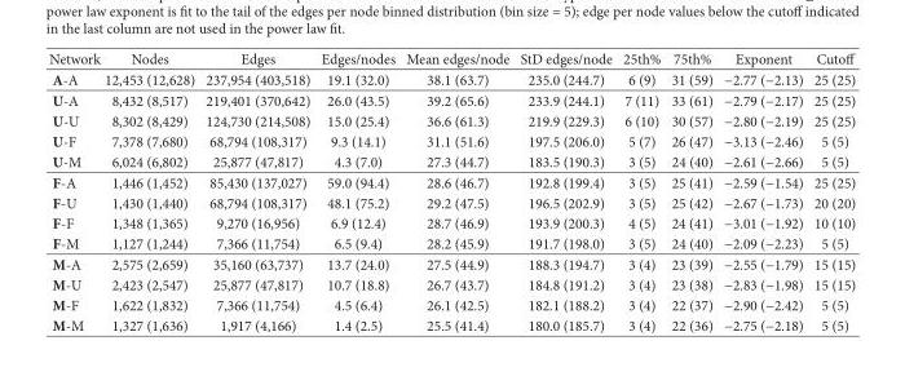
<table><thead><tr><td>Network</td><td>Nodes</td><td>Edges</td><td>Edges/nodes</td><td>Mean edges/node</td><td>StD edges/node</td><td>25th%</td><td>75th%</td><td>Exponent</td><td>Cutoff</td></tr></thead><tbody><tr><td>A-A</td><td>12,453 (12,628)</td><td>237,954 (403,518)</td><td>19.1 (32.0)</td><td>38.1 (63.7)</td><td>235.0 (244.7)</td><td>6 (9)</td><td>31 (59)</td><td>−2.77 (−2.13)</td><td>25 (25)</td></tr><tr><td>U-A</td><td>8,432 (8,517)</td><td>219,401 (370,642)</td><td>26.0 (43.5)</td><td>39.2 (65.6)</td><td>233.9 (244.1)</td><td>7 (11)</td><td>33 (61)</td><td>−2.79 (−2.17)</td><td>25 (25)</td></tr><tr><td>U-U</td><td>8,302 (8,429)</td><td>124,730 (214,508)</td><td>15.0 (25.4)</td><td>36.6 (61.3)</td><td>219.9 (229.3)</td><td>6 (10)</td><td>30 (57)</td><td>−2.80 (−2.19)</td><td>25 (25)</td></tr><tr><td>U-F</td><td>7,378 (7,680)</td><td>68,794 (108,317)</td><td>9.3 (14.1)</td><td>31.1 (51.6)</td><td>197.5 (206.0)</td><td>5 (7)</td><td>26 (47)</td><td>−3.13 (−2.46)</td><td>5 (5)</td></tr><tr><td>U-M</td><td>6,024 (6,802)</td><td>25,877 (47,817)</td><td>4.3 (7.0)</td><td>27.3 (44.7)</td><td>183.5 (190.3)</td><td>3 (5)</td><td>24 (40)</td><td>−2.61 (−2.66)</td><td>5 (5)</td></tr><tr><td>F-A</td><td>1,446 (1,452)</td><td>85,430 (137,027)</td><td>59.0 (94.4)</td><td>28.6 (46.7)</td><td>192.8 (199.4)</td><td>3 (5)</td><td>25 (41)</td><td>−2.59 (−1.54)</td><td>25 (25)</td></tr><tr><td>F-U</td><td>1,430 (1,440)</td><td>68,794 (108,317)</td><td>48.1 (75.2)</td><td>29.2 (47.5)</td><td>196.5 (202.9)</td><td>3 (5)</td><td>25 (42)</td><td>−2.67 (−1.73)</td><td>20 (20)</td></tr><tr><td>F-F</td><td>1,348 (1,365)</td><td>9,270 (16,956)</td><td>6.9 (12.4)</td><td>28.7 (46.9)</td><td>193.9 (200.3)</td><td>4 (5)</td><td>24 (41)</td><td>−3.01 (−1.92)</td><td>10 (10)</td></tr><tr><td>F-M</td><td>1,127 (1,244)</td><td>7,366 (11,754)</td><td>6.5 (9.4)</td><td>28.2 (45.9)</td><td>191.7 (198.0)</td><td>3 (5)</td><td>24 (40)</td><td>−2.09 (−2.23)</td><td>5 (5)</td></tr><tr><td>M-A</td><td>2,575 (2,659)</td><td>35,160 (63,737)</td><td>13.7 (24.0)</td><td>27.5 (44.9)</td><td>188.3 (194.7)</td><td>3 (4)</td><td>23 (39)</td><td>−2.55 (−1.79)</td><td>15 (15)</td></tr><tr><td>M-U</td><td>2,423 (2,547)</td><td>25,877 (47,817)</td><td>10.7 (18.8)</td><td>26.7 (43.7)</td><td>184.8 (191.2)</td><td>3 (4)</td><td>23 (38)</td><td>−2.83 (−1.98)</td><td>15 (15)</td></tr><tr><td>M-F</td><td>1,622 (1,832)</td><td>7,366 (11,754)</td><td>4.5 (6.4)</td><td>26.1 (42.5)</td><td>182.1 (188.2)</td><td>3 (4)</td><td>22 (37)</td><td>−2.90 (−2.42)</td><td>5 (5)</td></tr><tr><td>M-M</td><td>1,327 (1,636)</td><td>1,917 (4,166)</td><td>1.4 (2.5)</td><td>25.5 (41.4)</td><td>180.0 (185.7)</td><td>3 (4)</td><td>22 (36)</td><td>−2.75 (−2.18)</td><td>5 (5)</td></tr></tbody></table>